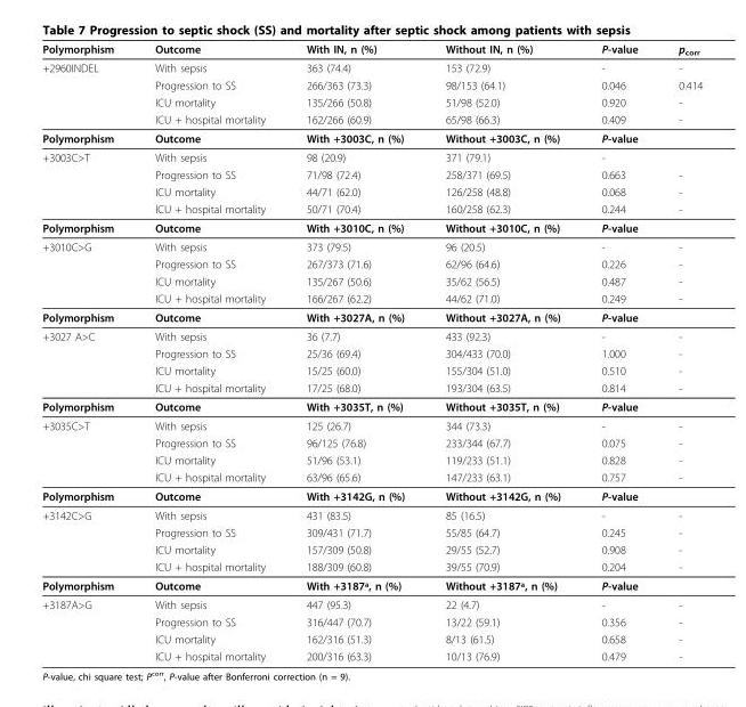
<table><thead><tr><td>Polymorphism</td><td>Outcome</td><td>With IN, n (%)</td><td>Without IN, n (%)</td><td>P-value</td><td>p<sub>corr</sub></td></tr></thead><tbody><tr><td rowspan="4">+2960INDEL</td><td>With sepsis</td><td>363 (74.4)</td><td>153 (72.9)</td><td>-</td><td>-</td></tr><tr><td>Progression to SS</td><td>266/363 (73.3)</td><td>98/153 (64.1)</td><td>0.046</td><td>0.414</td></tr><tr><td>ICU mortality</td><td>135/266 (50.8)</td><td>51/98 (52.0)</td><td>0.920</td><td>-</td></tr><tr><td>ICU + hospital mortality</td><td>162/266 (60.9)</td><td>65/98 (66.3)</td><td>0.409</td><td>-</td></tr><tr><td>Polymorphism</td><td>Outcome</td><td>With +3003C, n (%)</td><td>Without +3003C, n (%)</td><td>P-value</td><td></td></tr><tr><td rowspan="4">+3003C&gt;T</td><td>With sepsis</td><td>98 (20.9)</td><td>371 (79.1)</td><td>-</td><td></td></tr><tr><td>Progression to SS</td><td>71/98 (72.4)</td><td>258/371 (69.5)</td><td>0.663</td><td>-</td></tr><tr><td>ICU mortality</td><td>44/71 (62.0)</td><td>126/258 (48.8)</td><td>0.068</td><td>-</td></tr><tr><td>ICU + hospital mortality</td><td>50/71 (70.4)</td><td>160/258 (62.3)</td><td>0.244</td><td>-</td></tr><tr><td>Polymorphism</td><td>Outcome</td><td>With +3010C, n (%)</td><td>Without +3010C, n (%)</td><td>P-value</td><td></td></tr><tr><td rowspan="4">+3010C&gt;G</td><td>With sepsis</td><td>373 (79.5)</td><td>96 (20.5)</td><td>-</td><td>-</td></tr><tr><td>Progression to SS</td><td>267/373 (71.6)</td><td>62/96 (64.6)</td><td>0.226</td><td>-</td></tr><tr><td>ICU mortality</td><td>135/267 (50.6)</td><td>35/62 (56.5)</td><td>0.487</td><td>-</td></tr><tr><td>ICU + hospital mortality</td><td>166/267 (62.2)</td><td>44/62 (71.0)</td><td>0.249</td><td>-</td></tr><tr><td>Polymorphism</td><td>Outcome</td><td>With +3027A, n (%)</td><td>Without +3027A, n (%)</td><td>P-value</td><td></td></tr><tr><td rowspan="4">+3027 A&gt;C</td><td>With sepsis</td><td>36 (7.7)</td><td>433 (92.3)</td><td>-</td><td>-</td></tr><tr><td>Progression to SS</td><td>25/36 (69.4)</td><td>304/433 (70.0)</td><td>1.000</td><td>-</td></tr><tr><td>ICU mortality</td><td>15/25 (60.0)</td><td>155/304 (51.0)</td><td>0.510</td><td>-</td></tr><tr><td>ICU + hospital mortality</td><td>17/25 (68.0)</td><td>193/304 (63.5)</td><td>0.814</td><td>-</td></tr><tr><td>Polymorphism</td><td>Outcome</td><td>With +3035T, n (%)</td><td>Without +3035T, n (%)</td><td>P-value</td><td></td></tr><tr><td rowspan="4">+3035C&gt;T</td><td>With sepsis</td><td>125 (26.7)</td><td>344 (73.3)</td><td>-</td><td>-</td></tr><tr><td>Progression to SS</td><td>96/125 (76.8)</td><td>233/344 (67.7)</td><td>0.075</td><td>-</td></tr><tr><td>ICU mortality</td><td>51/96 (53.1)</td><td>119/233 (51.1)</td><td>0.828</td><td>-</td></tr><tr><td>ICU + hospital mortality</td><td>63/96 (65.6)</td><td>147/233 (63.1)</td><td>0.757</td><td>-</td></tr><tr><td>Polymorphism</td><td>Outcome</td><td>With +3142G, n (%)</td><td>Without +3142G, n (%)</td><td>P-value</td><td></td></tr><tr><td rowspan="4">+3142C&gt;G</td><td>With sepsis</td><td>431 (83.5)</td><td>85 (16.5)</td><td>-</td><td>-</td></tr><tr><td>Progression to SS</td><td>309/431 (71.7)</td><td>55/85 (64.7)</td><td>0.245</td><td>-</td></tr><tr><td>ICU mortality</td><td>157/309 (50.8)</td><td>29/55 (52.7)</td><td>0.908</td><td>-</td></tr><tr><td>ICU + hospital mortality</td><td>188/309 (60.8)</td><td>39/55 (70.9)</td><td>0.204</td><td>-</td></tr><tr><td>Polymorphism</td><td>Outcome</td><td>With +3187ª, n (%)</td><td>Without +3187ª, n (%)</td><td>P-value</td><td></td></tr><tr><td rowspan="4">+3187A&gt;G</td><td>With sepsis</td><td>447 (95.3)</td><td>22 (4.7)</td><td>-</td><td>-</td></tr><tr><td>Progression to SS</td><td>316/447 (70.7)</td><td>13/22 (59.1)</td><td>0.356</td><td>-</td></tr><tr><td>ICU mortality</td><td>162/316 (51.3)</td><td>8/13 (61.5)</td><td>0.658</td><td>-</td></tr><tr><td>ICU + hospital mortality</td><td>200/316 (63.3)</td><td>10/13 (76.9)</td><td>0.479</td><td>-</td></tr></tbody></table>